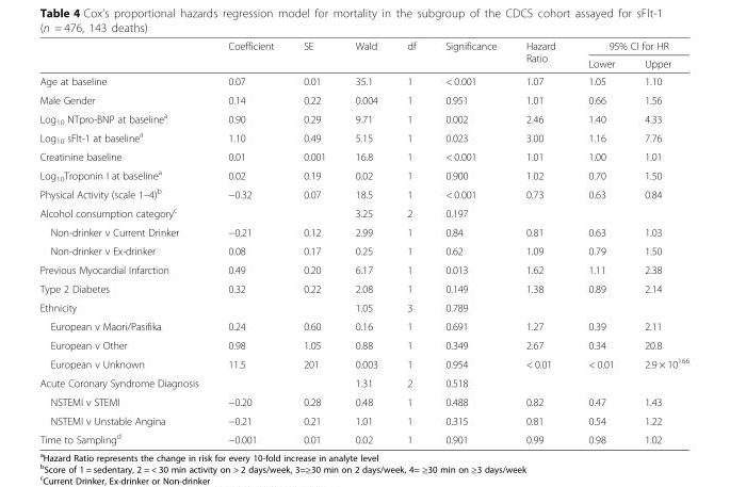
<table><thead><tr><td rowspan="2"></td><td rowspan="2">Coefficient</td><td rowspan="2">SE</td><td rowspan="2">Wald</td><td rowspan="2">df</td><td rowspan="2">Significance</td><td rowspan="2">Hazard Ratio</td><td colspan="2">95% CI for HR</td></tr><tr><td>Lower</td><td>Upper</td></tr></thead><tbody><tr><td>Age at baseline</td><td>0.07</td><td>0.01</td><td>35.1</td><td>1</td><td>&lt; 0.001</td><td>1.07</td><td>1.05</td><td>1.10</td></tr><tr><td>Male Gender</td><td>0.14</td><td>0.22</td><td>0.004</td><td>1</td><td>0.951</td><td>1.01</td><td>0.66</td><td>1.56</td></tr><tr><td>Log<sub>10</sub> NTpro-BNP at baseline<sup>a</sup></td><td>0.90</td><td>0.29</td><td>9.71</td><td>1</td><td>0.002</td><td>2.46</td><td>1.40</td><td>4.33</td></tr><tr><td>Log<sub>10</sub> sFlt-1 at baseline<sup>a</sup></td><td>1.10</td><td>0.49</td><td>5.15</td><td>1</td><td>0.023</td><td>3.00</td><td>1.16</td><td>7.76</td></tr><tr><td>Creatinine baseline</td><td>0.01</td><td>0.001</td><td>16.8</td><td>1</td><td>&lt; 0.001</td><td>1.01</td><td>1.00</td><td>1.01</td></tr><tr><td>Log<sub>10</sub>Troponin I at baseline<sup>a</sup></td><td>0.02</td><td>0.19</td><td>0.02</td><td>1</td><td>0.900</td><td>1.02</td><td>0.70</td><td>1.50</td></tr><tr><td>Physical Activity (scale 1–4)<sup>b</sup></td><td>−0.32</td><td>0.07</td><td>18.5</td><td>1</td><td>&lt; 0.001</td><td>0.73</td><td>0.63</td><td>0.84</td></tr><tr><td>Alcohol consumption category<sup>c</sup></td><td></td><td></td><td>3.25</td><td>2</td><td>0.197</td><td></td><td></td><td></td></tr><tr><td>Non-drinker v Current Drinker</td><td>−0.21</td><td>0.12</td><td>2.99</td><td>1</td><td>0.84</td><td>0.81</td><td>0.63</td><td>1.03</td></tr><tr><td>Non-drinker v Ex-drinker</td><td>0.08</td><td>0.17</td><td>0.25</td><td>1</td><td>0.62</td><td>1.09</td><td>0.79</td><td>1.50</td></tr><tr><td>Previous Myocardial Infarction</td><td>0.49</td><td>0.20</td><td>6.17</td><td>1</td><td>0.013</td><td>1.62</td><td>1.11</td><td>2.38</td></tr><tr><td>Type 2 Diabetes</td><td>0.32</td><td>0.22</td><td>2.08</td><td>1</td><td>0.149</td><td>1.38</td><td>0.89</td><td>2.14</td></tr><tr><td>Ethnicity</td><td></td><td></td><td>1.05</td><td>3</td><td>0.789</td><td></td><td></td><td></td></tr><tr><td>European v Maori/Pasifika</td><td>0.24</td><td>0.60</td><td>0.16</td><td>1</td><td>0.691</td><td>1.27</td><td>0.39</td><td>2.11</td></tr><tr><td>European v Other</td><td>0.98</td><td>1.05</td><td>0.88</td><td>1</td><td>0.349</td><td>2.67</td><td>0.34</td><td>20.8</td></tr><tr><td>European v Unknown</td><td>11.5</td><td>201</td><td>0.003</td><td>1</td><td>0.954</td><td>&lt; 0.01</td><td>&lt; 0.01</td><td>2.9 × 10<sup>166</sup></td></tr><tr><td>Acute Coronary Syndrome Diagnosis</td><td></td><td></td><td>1.31</td><td>2</td><td>0.518</td><td></td><td></td><td></td></tr><tr><td>NSTEMI v STEMI</td><td>−0.20</td><td>0.28</td><td>0.48</td><td>1</td><td>0.488</td><td>0.82</td><td>0.47</td><td>1.43</td></tr><tr><td>NSTEMI v Unstable Angina</td><td>−0.21</td><td>0.21</td><td>1.01</td><td>1</td><td>0.315</td><td>0.81</td><td>0.54</td><td>1.22</td></tr><tr><td>Time to Sampling<sup>d</sup></td><td>−0.001</td><td>0.01</td><td>0.02</td><td>1</td><td>0.901</td><td>0.99</td><td>0.98</td><td>1.02</td></tr></tbody></table>